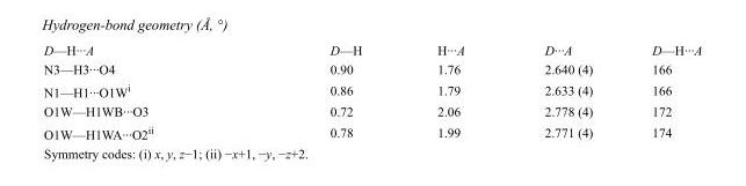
<table><tbody><tr><td>D—H···A</td><td>D—H</td><td>H···A</td><td>D···A</td><td>D—H···A</td></tr><tr><td>N3—H3···O4</td><td>0.90</td><td>1.76</td><td>2.640 (4)</td><td>166</td></tr><tr><td>N1—H1···O1W<sup>i</sup></td><td>0.86</td><td>1.79</td><td>2.633 (4)</td><td>166</td></tr><tr><td>O1W—H1WB···O3</td><td>0.72</td><td>2.06</td><td>2.778 (4)</td><td>172</td></tr><tr><td>O1W—H1WA···O2<sup>ii</sup></td><td>0.78</td><td>1.99</td><td>2.771 (4)</td><td>174</td></tr></tbody></table>